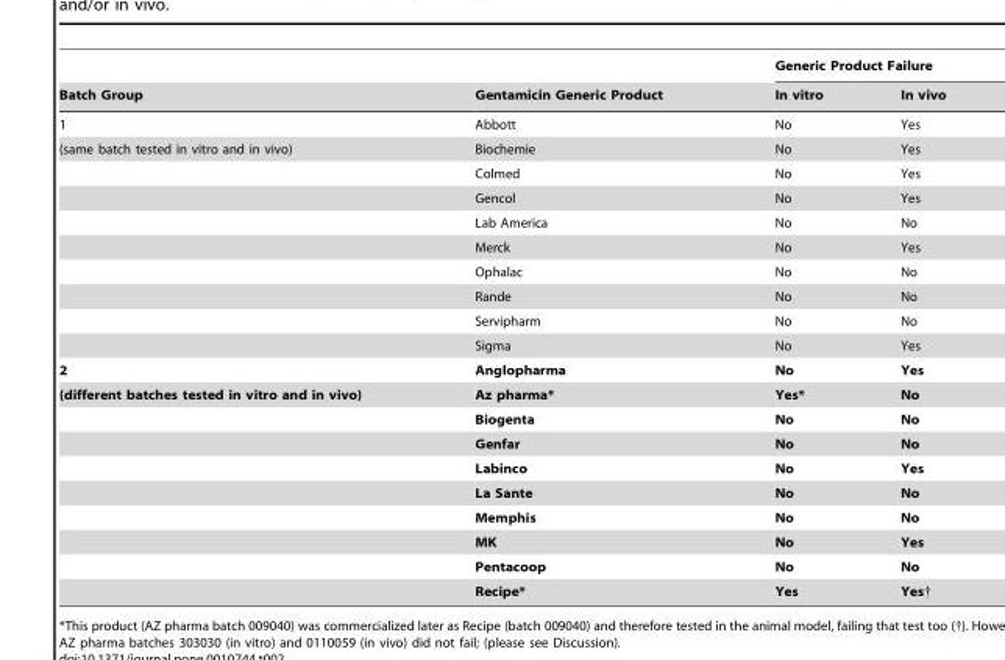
<table><thead><tr><td rowspan="2">Batch Group</td><td rowspan="2">Gentamicin Generic Product</td><td colspan="2">Generic Product Failure</td></tr><tr><td>In vitro</td><td>In vivo</td></tr></thead><tbody><tr><td>1</td><td>Abbott</td><td>No</td><td>Yes</td></tr><tr><td rowspan="9">(same batch tested in vitro and in vivo)</td><td>Biochemie</td><td>No</td><td>Yes</td></tr><tr><td>Colmed</td><td>No</td><td>Yes</td></tr><tr><td>Gencol</td><td>No</td><td>Yes</td></tr><tr><td>Lab America</td><td>No</td><td>No</td></tr><tr><td>Merck</td><td>No</td><td>Yes</td></tr><tr><td>Ophalac</td><td>No</td><td>No</td></tr><tr><td>Rande</td><td>No</td><td>No</td></tr><tr><td>Servipharm</td><td>No</td><td>No</td></tr><tr><td>Sigma</td><td>No</td><td>Yes</td></tr><tr><td>2</td><td>Anglopharma</td><td>No</td><td>Yes</td></tr><tr><td rowspan="9">(different batches tested in vitro and in vivo)</td><td>Az pharma*</td><td>Yes*</td><td>No</td></tr><tr><td>Biogenta</td><td>No</td><td>No</td></tr><tr><td>Genfar</td><td>No</td><td>No</td></tr><tr><td>Labinco</td><td>No</td><td>Yes</td></tr><tr><td>La Sante</td><td>No</td><td>No</td></tr><tr><td>Memphis</td><td>No</td><td>No</td></tr><tr><td>MK</td><td>No</td><td>Yes</td></tr><tr><td>Pentacoop</td><td>No</td><td>No</td></tr><tr><td>Recipe*</td><td>Yes</td><td>Yes†</td></tr></tbody></table>